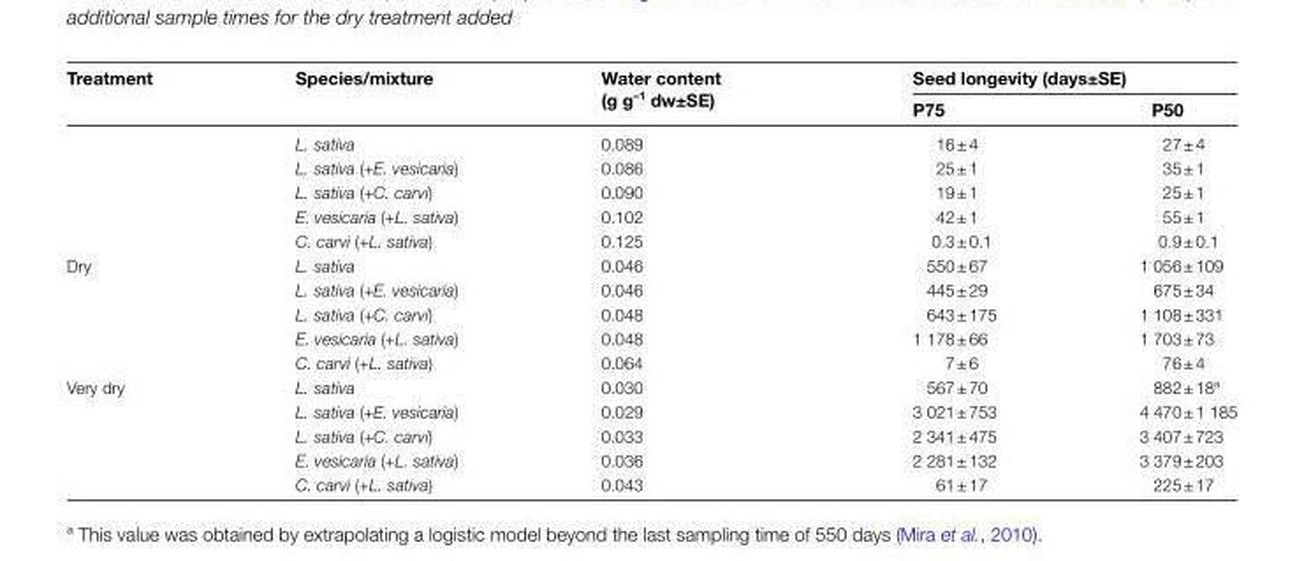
<table><thead><tr><td rowspan="2">Treatment</td><td rowspan="2">Species/mixture</td><td rowspan="2">Water content (g g<sup>–1</sup> dw±SE)</td><td colspan="2">Seed longevity (days±SE)</td></tr><tr><td>P75</td><td>P50</td></tr></thead><tbody><tr><td rowspan="5"></td><td>L. sativa</td><td>0.089</td><td>16 ± 4</td><td>27 ± 4</td></tr><tr><td>L. sativa (+E. vesicaria)</td><td>0.086</td><td>25 ± 1</td><td>35 ± 1</td></tr><tr><td>L. sativa (+C. carvi)</td><td>0.090</td><td>19 ± 1</td><td>25 ± 1</td></tr><tr><td>E. vesicaria (+L. sativa)</td><td>0.102</td><td>42 ± 1</td><td>55 ± 1</td></tr><tr><td>C. carvi (+L. sativa)</td><td>0.125</td><td>0.3 ± 0.1</td><td>0.9 ± 0.1</td></tr><tr><td rowspan="5">Dry</td><td>L. sativa</td><td>0.046</td><td>550 ± 67</td><td>1 056 ± 109</td></tr><tr><td>L. sativa (+E. vesicaria)</td><td>0.046</td><td>445 ± 29</td><td>675 ± 34</td></tr><tr><td>L. sativa (+C. carvi)</td><td>0.048</td><td>643 ± 175</td><td>1 108 ± 331</td></tr><tr><td>E. vesicaria (+L. sativa)</td><td>0.048</td><td>1 178 ± 66</td><td>1 703 ± 73</td></tr><tr><td>C. carvi (+L. sativa)</td><td>0.064</td><td>7 ± 6</td><td>76 ± 4</td></tr><tr><td rowspan="5">Very dry</td><td>L. sativa</td><td>0.030</td><td>567 ± 70</td><td>882 ± 18<sup>a</sup></td></tr><tr><td>L. sativa (+E. vesicaria)</td><td>0.029</td><td>3 021 ± 753</td><td>4 470 ± 1 185</td></tr><tr><td>L. sativa (+C. carvi)</td><td>0.033</td><td>2 341 ± 475</td><td>3 407 ± 723</td></tr><tr><td>E. vesicaria (+L. sativa)</td><td>0.036</td><td>2 281 ± 132</td><td>3 379 ± 203</td></tr><tr><td>C. carvi (+L. sativa)</td><td>0.043</td><td>61 ± 17</td><td>225 ± 17</td></tr></tbody></table>